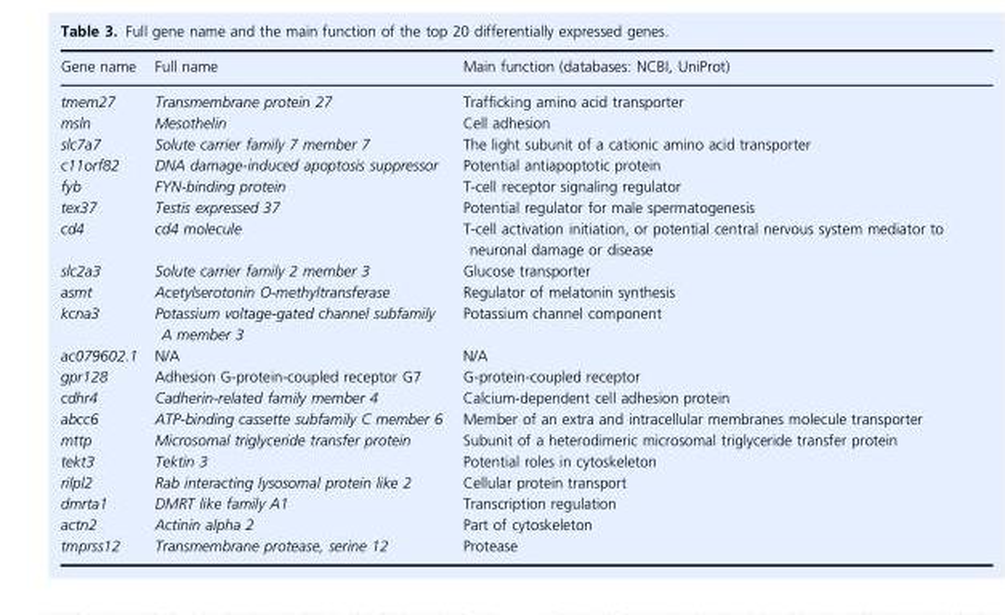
<table><thead><tr><td>Gene name</td><td>Full name</td><td>Main function (databases: NCBI, UniProt)</td></tr></thead><tbody><tr><td>tmem27</td><td>Transmembrane protein 27</td><td>Trafficking amino acid transporter</td></tr><tr><td>msln</td><td>Mesothelin</td><td>Cell adhesion</td></tr><tr><td>slc7a7</td><td>Solute carrier family 7 member 7</td><td>The light subunit of a cationic amino acid transporter</td></tr><tr><td>c11orf82</td><td>DNA damage-induced apoptosis suppressor</td><td>Potential antiapoptotic protein</td></tr><tr><td>fyb</td><td>FYN-binding protein</td><td>T-cell receptor signaling regulator</td></tr><tr><td>tex37</td><td>Testis expressed 37</td><td>Potential regulator for male spermatogenesis</td></tr><tr><td>cd4</td><td>cd4 molecule</td><td>T-cell activation initiation, or potential central nervous system mediator to neuronal damage or disease</td></tr><tr><td>slc2a3</td><td>Solute carrier family 2 member 3</td><td>Glucose transporter</td></tr><tr><td>asmt</td><td>Acetylserotonin O-methyltransferase</td><td>Regulator of melatonin synthesis</td></tr><tr><td>kcna3</td><td>Potassium voltage-gated channel subfamily A member 3</td><td>Potassium channel component</td></tr><tr><td>ac079602.1</td><td>N/A</td><td>N/A</td></tr><tr><td>gpr128</td><td>Adhesion G-protein-coupled receptor G7</td><td>G-protein-coupled receptor</td></tr><tr><td>cdhr4</td><td>Cadherin-related family member 4</td><td>Calcium-dependent cell adhesion protein</td></tr><tr><td>abcc6</td><td>ATP-binding cassette subfamily C member 6</td><td>Member of an extra and intracellular membranes molecule transporter</td></tr><tr><td>mttp</td><td>Microsomal triglyceride transfer protein</td><td>Subunit of a heterodimeric microsomal triglyceride transfer protein</td></tr><tr><td>tekt3</td><td>Tektin 3</td><td>Potential roles in cytoskeleton</td></tr><tr><td>rilpl2</td><td>Rab interacting lysosomal protein like 2</td><td>Cellular protein transport</td></tr><tr><td>dmrta1</td><td>DMRT like family A1</td><td>Transcription regulation</td></tr><tr><td>actn2</td><td>Actinin alpha 2</td><td>Part of cytoskeleton</td></tr><tr><td>tmprss12</td><td>Transmembrane protease, serine 12</td><td>Protease</td></tr></tbody></table>